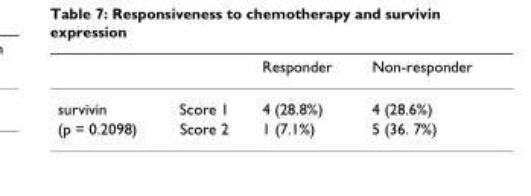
<table><thead><tr><td></td><td></td><td>Responder</td><td>Non-responder</td></tr></thead><tbody><tr><td>survivin</td><td>Score 1</td><td>4 (28.8%)</td><td>4 (28.6%)</td></tr><tr><td>(p = 0.2098)</td><td>Score 2</td><td>1 (7.1%)</td><td>5 (36. 7%)</td></tr></tbody></table>